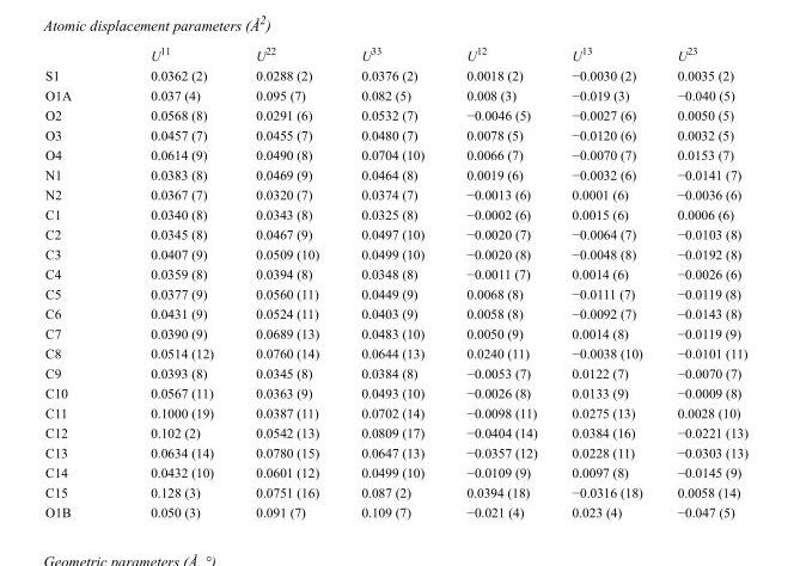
<table><thead><tr><td></td><td>U<sup>11</sup></td><td>U<sup>22</sup></td><td>U<sup>33</sup></td><td>U<sup>12</sup></td><td>U<sup>13</sup></td><td>U<sup>23</sup></td></tr></thead><tbody><tr><td>S1</td><td>0.0362 (2)</td><td>0.0288 (2)</td><td>0.0376 (2)</td><td>0.0018 (2)</td><td>−0.0030 (2)</td><td>0.0035 (2)</td></tr><tr><td>O1A</td><td>0.037 (4)</td><td>0.095 (7)</td><td>0.082 (5)</td><td>0.008 (3)</td><td>−0.019 (3)</td><td>−0.040 (5)</td></tr><tr><td>O2</td><td>0.0568 (8)</td><td>0.0291 (6)</td><td>0.0532 (7)</td><td>−0.0046 (5)</td><td>−0.0027 (6)</td><td>0.0050 (5)</td></tr><tr><td>O3</td><td>0.0457 (7)</td><td>0.0455 (7)</td><td>0.0480 (7)</td><td>0.0078 (5)</td><td>−0.0120 (6)</td><td>0.0032 (5)</td></tr><tr><td>O4</td><td>0.0614 (9)</td><td>0.0490 (8)</td><td>0.0704 (10)</td><td>0.0066 (7)</td><td>−0.0070 (7)</td><td>0.0153 (7)</td></tr><tr><td>N1</td><td>0.0383 (8)</td><td>0.0469 (9)</td><td>0.0464 (8)</td><td>0.0019 (6)</td><td>−0.0032 (6)</td><td>−0.0141 (7)</td></tr><tr><td>N2</td><td>0.0367 (7)</td><td>0.0320 (7)</td><td>0.0374 (7)</td><td>−0.0013 (6)</td><td>0.0001 (6)</td><td>−0.0036 (6)</td></tr><tr><td>C1</td><td>0.0340 (8)</td><td>0.0343 (8)</td><td>0.0325 (8)</td><td>−0.0002 (6)</td><td>0.0015 (6)</td><td>0.0006 (6)</td></tr><tr><td>C2</td><td>0.0345 (8)</td><td>0.0467 (9)</td><td>0.0497 (10)</td><td>−0.0020 (7)</td><td>−0.0064 (7)</td><td>−0.0103 (8)</td></tr><tr><td>C3</td><td>0.0407 (9)</td><td>0.0509 (10)</td><td>0.0499 (10)</td><td>−0.0020 (8)</td><td>−0.0048 (8)</td><td>−0.0192 (8)</td></tr><tr><td>C4</td><td>0.0359 (8)</td><td>0.0394 (8)</td><td>0.0348 (8)</td><td>−0.0011 (7)</td><td>0.0014 (6)</td><td>−0.0026 (6)</td></tr><tr><td>C5</td><td>0.0377 (9)</td><td>0.0560 (11)</td><td>0.0449 (9)</td><td>0.0068 (8)</td><td>−0.0111 (7)</td><td>−0.0119 (8)</td></tr><tr><td>C6</td><td>0.0431 (9)</td><td>0.0524 (11)</td><td>0.0403 (9)</td><td>0.0058 (8)</td><td>−0.0092 (7)</td><td>−0.0143 (8)</td></tr><tr><td>C7</td><td>0.0390 (9)</td><td>0.0689 (13)</td><td>0.0483 (10)</td><td>0.0050 (9)</td><td>0.0014 (8)</td><td>−0.0119 (9)</td></tr><tr><td>C8</td><td>0.0514 (12)</td><td>0.0760 (14)</td><td>0.0644 (13)</td><td>0.0240 (11)</td><td>−0.0038 (10)</td><td>−0.0101 (11)</td></tr><tr><td>C9</td><td>0.0393 (8)</td><td>0.0345 (8)</td><td>0.0384 (8)</td><td>−0.0053 (7)</td><td>0.0122 (7)</td><td>−0.0070 (7)</td></tr><tr><td>C10</td><td>0.0567 (11)</td><td>0.0363 (9)</td><td>0.0493 (10)</td><td>−0.0026 (8)</td><td>0.0133 (9)</td><td>−0.0009 (8)</td></tr><tr><td>C11</td><td>0.1000 (19)</td><td>0.0387 (11)</td><td>0.0702 (14)</td><td>−0.0098 (11)</td><td>0.0275 (13)</td><td>0.0028 (10)</td></tr><tr><td>C12</td><td>0.102 (2)</td><td>0.0542 (13)</td><td>0.0809 (17)</td><td>−0.0404 (14)</td><td>0.0384 (16)</td><td>−0.0221 (13)</td></tr><tr><td>C13</td><td>0.0634 (14)</td><td>0.0780 (15)</td><td>0.0647 (13)</td><td>−0.0357 (12)</td><td>0.0228 (11)</td><td>−0.0303 (13)</td></tr><tr><td>C14</td><td>0.0432 (10)</td><td>0.0601 (12)</td><td>0.0499 (10)</td><td>−0.0109 (9)</td><td>0.0097 (8)</td><td>−0.0145 (9)</td></tr><tr><td>C15</td><td>0.128 (3)</td><td>0.0751 (16)</td><td>0.087 (2)</td><td>0.0394 (18)</td><td>−0.0316 (18)</td><td>0.0058 (14)</td></tr><tr><td>O1B</td><td>0.050 (3)</td><td>0.091 (7)</td><td>0.109 (7)</td><td>−0.021 (4)</td><td>0.023 (4)</td><td>−0.047 (5)</td></tr></tbody></table>